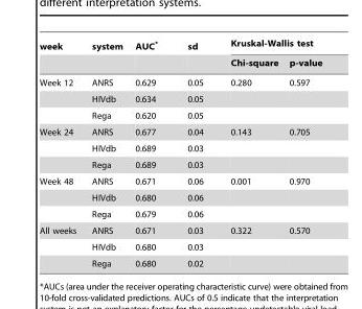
<table><thead><tr><td rowspan="2">week</td><td rowspan="2">system</td><td rowspan="2">AUC*</td><td rowspan="2">sd</td><td colspan="2">Kruskal-Wallis test</td></tr><tr><td>Chi-square</td><td>p-value</td></tr></thead><tbody><tr><td rowspan="3">Week 12</td><td>ANRS</td><td>0.629</td><td>0.05</td><td>0.280</td><td>0.597</td></tr><tr><td>HIVdb</td><td>0.634</td><td>0.05</td><td></td><td></td></tr><tr><td>Rega</td><td>0.620</td><td>0.05</td><td></td><td></td></tr><tr><td rowspan="3">Week 24</td><td>ANRS</td><td>0.677</td><td>0.04</td><td>0.143</td><td>0.705</td></tr><tr><td>HIVdb</td><td>0.689</td><td>0.03</td><td></td><td></td></tr><tr><td>Rega</td><td>0.689</td><td>0.03</td><td></td><td></td></tr><tr><td rowspan="3">Week 48</td><td>ANRS</td><td>0.671</td><td>0.06</td><td>0.001</td><td>0.970</td></tr><tr><td>HIVdb</td><td>0.680</td><td>0.06</td><td></td><td></td></tr><tr><td>Rega</td><td>0.679</td><td>0.06</td><td></td><td></td></tr><tr><td rowspan="3">All weeks</td><td>ANRS</td><td>0.671</td><td>0.03</td><td>0.322</td><td>0.570</td></tr><tr><td>HIVdb</td><td>0.680</td><td>0.03</td><td></td><td></td></tr><tr><td>Rega</td><td>0.680</td><td>0.02</td><td></td><td></td></tr></tbody></table>